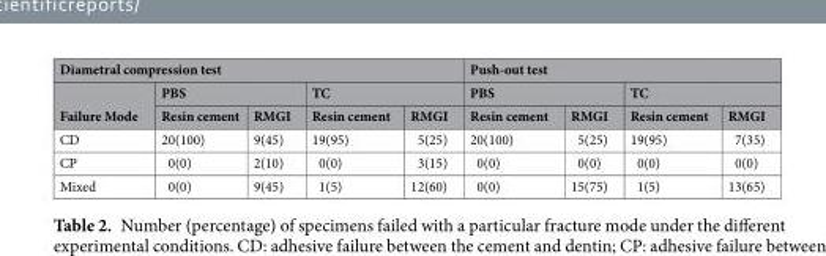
<table><thead><tr><td colspan="5">Diametral compression test</td><td colspan="4">Push-out test</td></tr><tr><td rowspan="2">Failure Mode</td><td colspan="2">PBS</td><td colspan="2">TC</td><td colspan="2">PBS</td><td colspan="2">TC</td></tr><tr><td>Resin cement</td><td>RMGI</td><td>Resin cement</td><td>RMGI</td><td>Resin cement</td><td>RMGI</td><td>Resin cement</td><td>RMGI</td></tr></thead><tbody><tr><td>CD</td><td>20(100)</td><td>9(45)</td><td>19(95)</td><td>5(25)</td><td>20(100)</td><td>5(25)</td><td>19(95)</td><td>7(35)</td></tr><tr><td>CP</td><td>0(0)</td><td>2(10)</td><td>0(0)</td><td>3(15)</td><td>0(0)</td><td>0(0)</td><td>0(0)</td><td>0(0)</td></tr><tr><td>Mixed</td><td>0(0)</td><td>9(45)</td><td>1(5)</td><td>12(60)</td><td>0(0)</td><td>15(75)</td><td>1(5)</td><td>13(65)</td></tr></tbody></table>